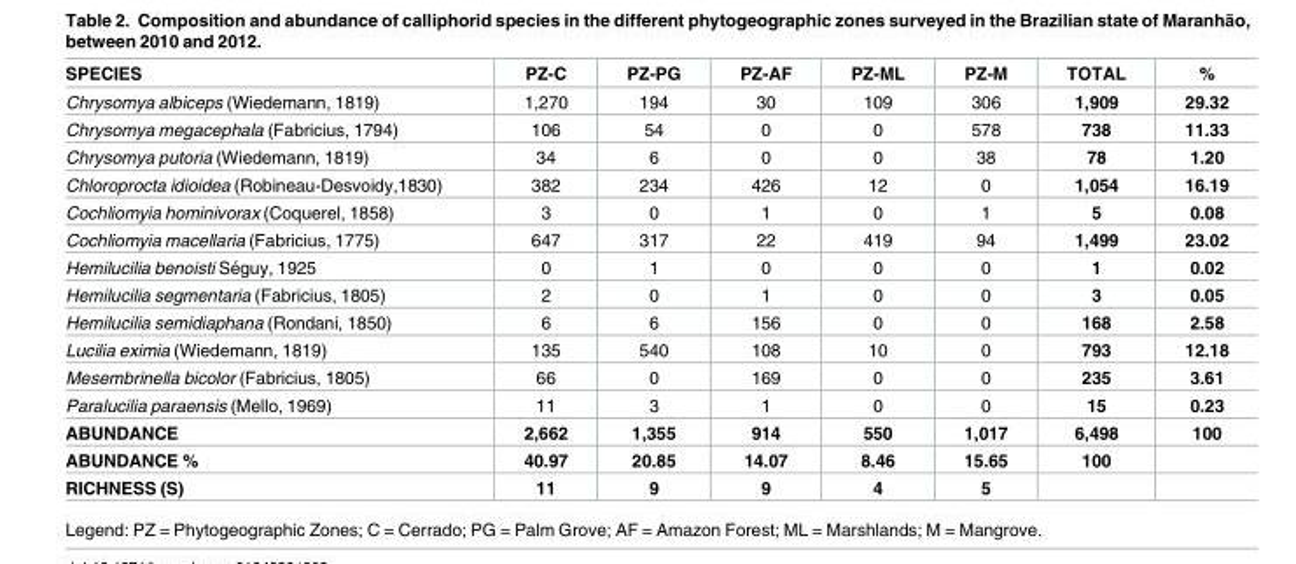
<table><thead><tr><td>SPECIES</td><td>PZ-C</td><td>PZ-PG</td><td>PZ-AF</td><td>PZ-ML</td><td>PZ-M</td><td>TOTAL</td><td>%</td></tr></thead><tbody><tr><td>Chrysomya albiceps (Wiedemann, 1819)</td><td>1,270</td><td>194</td><td>30</td><td>109</td><td>306</td><td>1,909</td><td>29.32</td></tr><tr><td>Chrysomya megacephala (Fabricius, 1794)</td><td>106</td><td>54</td><td>0</td><td>0</td><td>578</td><td>738</td><td>11.33</td></tr><tr><td>Chrysomya putoria (Wiedemann, 1819)</td><td>34</td><td>6</td><td>0</td><td>0</td><td>38</td><td>78</td><td>1.20</td></tr><tr><td>Chloroprocta idioidea (Robineau-Desvoidy,1830)</td><td>382</td><td>234</td><td>426</td><td>12</td><td>0</td><td>1,054</td><td>16.19</td></tr><tr><td>Cochliomyia hominivorax (Coquerel, 1858)</td><td>3</td><td>0</td><td>1</td><td>0</td><td>1</td><td>5</td><td>0.08</td></tr><tr><td>Cochliomyia macellaria (Fabricius, 1775)</td><td>647</td><td>317</td><td>22</td><td>419</td><td>94</td><td>1,499</td><td>23.02</td></tr><tr><td>Hemilucilia benoisti Se´guy, 1925</td><td>0</td><td>1</td><td>0</td><td>0</td><td>0</td><td>1</td><td>0.02</td></tr><tr><td>Hemilucilia segmentaria (Fabricius, 1805)</td><td>2</td><td>0</td><td>1</td><td>0</td><td>0</td><td>3</td><td>0.05</td></tr><tr><td>Hemilucilia semidiaphana (Rondani, 1850)</td><td>6</td><td>6</td><td>156</td><td>0</td><td>0</td><td>168</td><td>2.58</td></tr><tr><td>Lucilia eximia (Wiedemann, 1819)</td><td>135</td><td>540</td><td>108</td><td>10</td><td>0</td><td>793</td><td>12.18</td></tr><tr><td>Mesembrinella bicolor (Fabricius, 1805)</td><td>66</td><td>0</td><td>169</td><td>0</td><td>0</td><td>235</td><td>3.61</td></tr><tr><td>Paralucilia paraensis (Mello, 1969)</td><td>11</td><td>3</td><td>1</td><td>0</td><td>0</td><td>15</td><td>0.23</td></tr><tr><td>ABUNDANCE</td><td>2,662</td><td>1,355</td><td>914</td><td>550</td><td>1,017</td><td>6,498</td><td>100</td></tr><tr><td>ABUNDANCE %</td><td>40.97</td><td>20.85</td><td>14.07</td><td>8.46</td><td>15.65</td><td>100</td><td></td></tr><tr><td>RICHNESS (S)</td><td>11</td><td>9</td><td>9</td><td>4</td><td>5</td><td></td><td></td></tr></tbody></table>